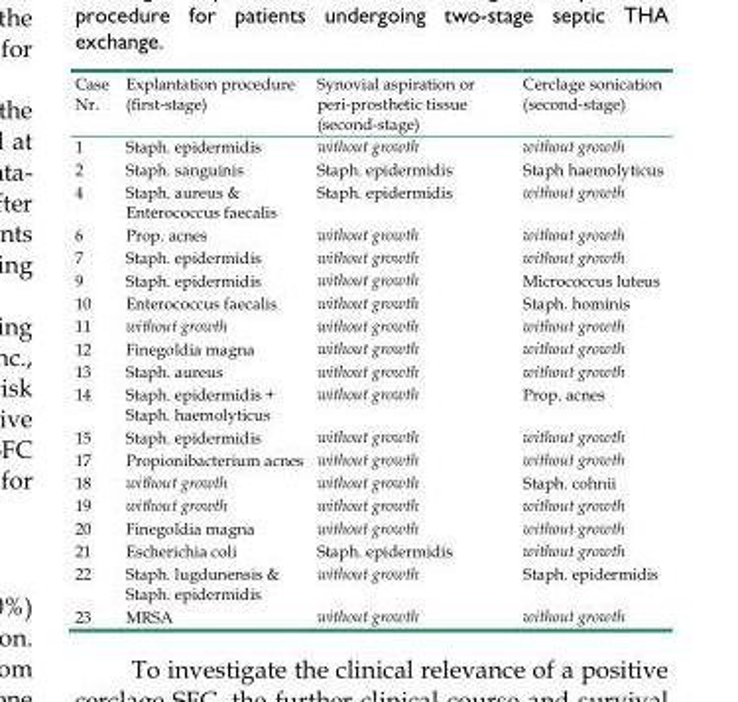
<table><thead><tr><td>Case Nr.</td><td>Explantation procedure (first-stage)</td><td>Synovial aspiration or peri-prosthetic tissue (second-stage)</td><td>Cerclage sonication (second-stage)</td></tr></thead><tbody><tr><td>1</td><td>Staph. epidermidis</td><td>without growth</td><td>without growth</td></tr><tr><td>2</td><td>Staph. sanguinis</td><td>Staph. epidermidis</td><td>Staph haemolyticus</td></tr><tr><td>4</td><td>Staph. aureus &amp; Enterococcus faecalis</td><td>Staph. epidermidis</td><td>without growth</td></tr><tr><td>6</td><td>Prop. acnes</td><td>without growth</td><td>without growth</td></tr><tr><td>7</td><td>Staph. epidermidis</td><td>without growth</td><td>without growth</td></tr><tr><td>9</td><td>Staph. epidermidis</td><td>without growth</td><td>Micrococcus luteus</td></tr><tr><td>10</td><td>Enterococcus faecalis</td><td>without growth</td><td>Staph. hominis</td></tr><tr><td>11</td><td>without growth</td><td>without growth</td><td>without growth</td></tr><tr><td>12</td><td>Finegoldia magna</td><td>without growth</td><td>without growth</td></tr><tr><td>13</td><td>Staph. aureus</td><td>without growth</td><td>without growth</td></tr><tr><td>14</td><td>Staph. epidermidis + Staph. haemolyticus</td><td>without growth</td><td>Prop. acnes</td></tr><tr><td>15</td><td>Staph. epidermidis</td><td>without growth</td><td>without growth</td></tr><tr><td>17</td><td>Propionibacterium acnes</td><td>without growth</td><td>without growth</td></tr><tr><td>18</td><td>without growth</td><td>without growth</td><td>Staph. cohnii</td></tr><tr><td>19</td><td>without growth</td><td>without growth</td><td>without growth</td></tr><tr><td>20</td><td>Finegoldia magna</td><td>without growth</td><td>without growth</td></tr><tr><td>21</td><td>Escherichia coli</td><td>Staph. epidermidis</td><td>without growth</td></tr><tr><td>22</td><td>Staph. lugdunensis &amp; Staph. epidermidis</td><td>without growth</td><td>Staph. epidermidis</td></tr><tr><td>23</td><td>MRSA</td><td>without growth</td><td>without growth</td></tr></tbody></table>